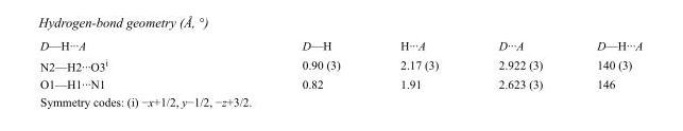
<table><tbody><tr><td>D—H···A</td><td>D—H</td><td>H···A</td><td>D···A</td><td>D—H···A</td></tr><tr><td>N2—H2···O3<sup>i</sup></td><td>0.90 (3)</td><td>2.17 (3)</td><td>2.922 (3)</td><td>140 (3)</td></tr><tr><td>O1—H1···N1</td><td>0.82</td><td>1.91</td><td>2.623 (3)</td><td>146</td></tr></tbody></table>